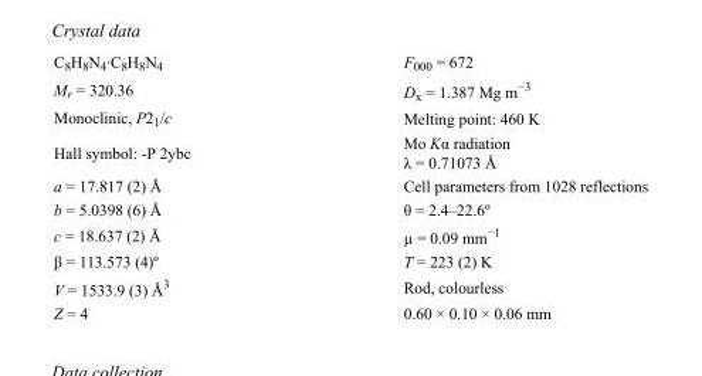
<table><tbody><tr><td>C<sub>8</sub>H<sub>8</sub>N<sub>4</sub>·C<sub>8</sub>H<sub>8</sub>N<sub>4</sub></td><td>F000 = 672</td></tr><tr><td>M<sub>r</sub> = 320.36</td><td>D<sub>x</sub> = 1.387 Mg m<sup>−3</sup></td></tr><tr><td>Monoclinic, P2<sub>1</sub>/c</td><td>Melting point: 460 K</td></tr><tr><td>Hall symbol: -P 2ybc</td><td>Mo Kα radiation λ = 0.71073 Å</td></tr><tr><td>a = 17.817 (2) Å</td><td>Cell parameters from 1028 reflections</td></tr><tr><td>b = 5.0398 (6) Å</td><td>θ = 2.4–22.6º</td></tr><tr><td>c = 18.637 (2) Å</td><td>µ = 0.09 mm<sup>−1</sup></td></tr><tr><td>β = 113.573 (4)º</td><td>T = 223 (2) K</td></tr><tr><td>V = 1533.9 (3) Å<sup>3</sup></td><td>Rod, colourless</td></tr><tr><td>Z = 4</td><td>0.60 × 0.10 × 0.06 mm</td></tr></tbody></table>